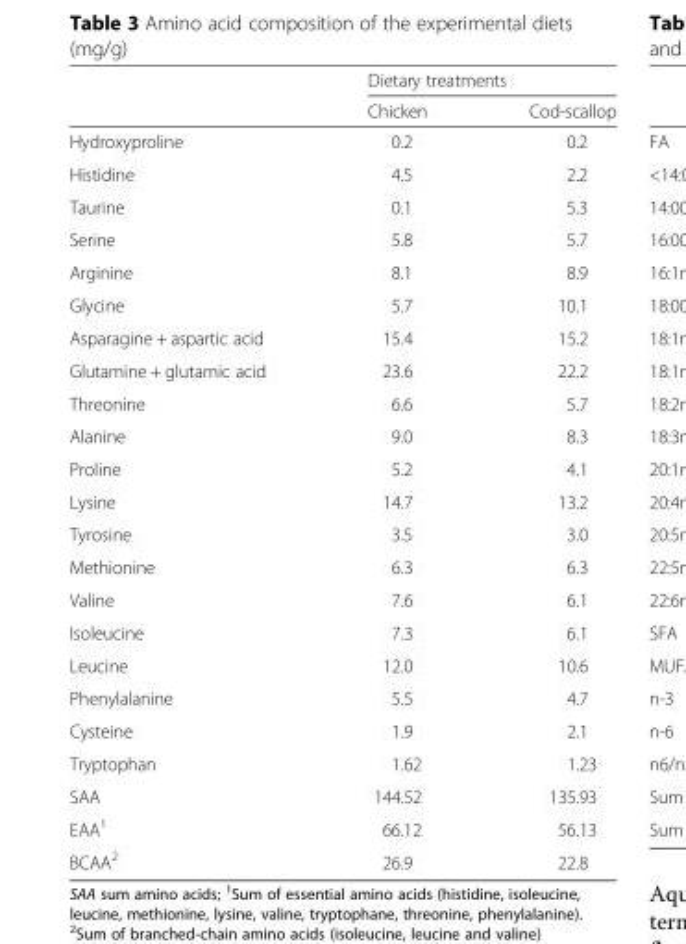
<table><thead><tr><td rowspan="2"></td><td colspan="2">Dietary treatments</td></tr><tr><td>Chicken</td><td>Cod-scallop</td></tr></thead><tbody><tr><td>Hydroxyproline</td><td>0.2</td><td>0.2</td></tr><tr><td>Histidine</td><td>4.5</td><td>2.2</td></tr><tr><td>Taurine</td><td>0.1</td><td>5.3</td></tr><tr><td>Serine</td><td>5.8</td><td>5.7</td></tr><tr><td>Arginine</td><td>8.1</td><td>8.9</td></tr><tr><td>Glycine</td><td>5.7</td><td>10.1</td></tr><tr><td>Asparagine + aspartic acid</td><td>15.4</td><td>15.2</td></tr><tr><td>Glutamine + glutamic acid</td><td>23.6</td><td>22.2</td></tr><tr><td>Threonine</td><td>6.6</td><td>5.7</td></tr><tr><td>Alanine</td><td>9.0</td><td>8.3</td></tr><tr><td>Proline</td><td>5.2</td><td>4.1</td></tr><tr><td>Lysine</td><td>14.7</td><td>13.2</td></tr><tr><td>Tyrosine</td><td>3.5</td><td>3.0</td></tr><tr><td>Methionine</td><td>6.3</td><td>6.3</td></tr><tr><td>Valine</td><td>7.6</td><td>6.1</td></tr><tr><td>Isoleucine</td><td>7.3</td><td>6.1</td></tr><tr><td>Leucine</td><td>12.0</td><td>10.6</td></tr><tr><td>Phenylalanine</td><td>5.5</td><td>4.7</td></tr><tr><td>Cysteine</td><td>1.9</td><td>2.1</td></tr><tr><td>Tryptophan</td><td>1.62</td><td>1.23</td></tr><tr><td>SAA</td><td>144.52</td><td>135.93</td></tr><tr><td>EAA<sup>1</sup></td><td>66.12</td><td>56.13</td></tr><tr><td>BCAA<sup>2</sup></td><td>26.9</td><td>22.8</td></tr></tbody></table>